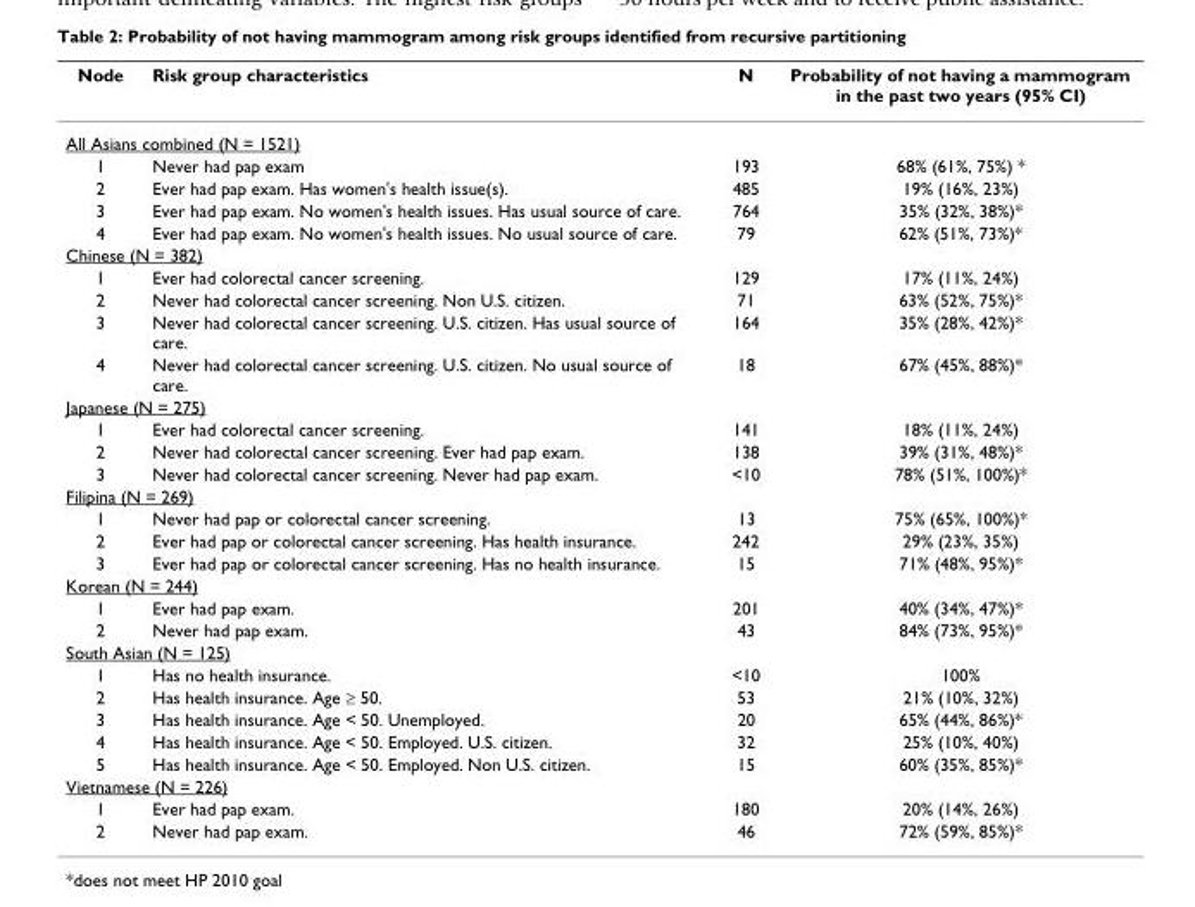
<table><thead><tr><td>Node</td><td>Risk group characteristics</td><td>N</td><td>Probability of not having a mammogram in the past two years (95% CI)</td></tr></thead><tbody><tr><td colspan="4">All Asians combined (N = 1521)</td></tr><tr><td>1</td><td>Never had pap exam</td><td>193</td><td>68% (61%, 75%) *</td></tr><tr><td>2</td><td>Ever had pap exam. Has women&#x27;s health issue(s).</td><td>485</td><td>19% (16%, 23%)</td></tr><tr><td>3</td><td>Ever had pap exam. No women&#x27;s health issues. Has usual source of care.</td><td>764</td><td>35% (32%, 38%)*</td></tr><tr><td>4</td><td>Ever had pap exam. No women&#x27;s health issues. No usual source of care.</td><td>79</td><td>62% (51%, 73%)*</td></tr><tr><td colspan="4">Chinese (N = 382)</td></tr><tr><td>1</td><td>Ever had colorectal cancer screening.</td><td>129</td><td>17% (11%, 24%)</td></tr><tr><td>2</td><td>Never had colorectal cancer screening. Non U.S. citizen.</td><td>71</td><td>63% (52%, 75%)*</td></tr><tr><td>3</td><td>Never had colorectal cancer screening. U.S. citizen. Has usual source of care.</td><td>164</td><td>35% (28%, 42%)*</td></tr><tr><td>4</td><td>Never had colorectal cancer screening. U.S. citizen. No usual source of care.</td><td>18</td><td>67% (45%, 88%)*</td></tr><tr><td colspan="4">Japanese (N = 275)</td></tr><tr><td>1</td><td>Ever had colorectal cancer screening.</td><td>141</td><td>18% (11%, 24%)</td></tr><tr><td>2</td><td>Never had colorectal cancer screening. Ever had pap exam.</td><td>138</td><td>39% (31%, 48%)*</td></tr><tr><td>3</td><td>Never had colorectal cancer screening. Never had pap exam.</td><td>&lt;10</td><td>78% (51%, 100%)*</td></tr><tr><td colspan="4">Filipina (N = 269)</td></tr><tr><td>1</td><td>Never had pap or colorectal cancer screening.</td><td>13</td><td>75% (65%, 100%)*</td></tr><tr><td>2</td><td>Ever had pap or colorectal cancer screening. Has health insurance.</td><td>242</td><td>29% (23%, 35%)</td></tr><tr><td>3</td><td>Ever had pap or colorectal cancer screening. Has no health insurance.</td><td>15</td><td>71% (48%, 95%)*</td></tr><tr><td colspan="4">Korean (N = 244)</td></tr><tr><td>1</td><td>Ever had pap exam.</td><td>201</td><td>40% (34%, 47%)*</td></tr><tr><td>2</td><td>Never had pap exam.</td><td>43</td><td>84% (73%, 95%)*</td></tr><tr><td colspan="4">South Asian (N = 125)</td></tr><tr><td>1</td><td>Has no health insurance.</td><td>&lt;10</td><td>100%</td></tr><tr><td>2</td><td>Has health insurance. Age ≥ 50.</td><td>53</td><td>21% (10%, 32%)</td></tr><tr><td>3</td><td>Has health insurance. Age &lt; 50. Unemployed.</td><td>20</td><td>65% (44%, 86%)*</td></tr><tr><td>4</td><td>Has health insurance. Age &lt; 50. Employed. U.S. citizen.</td><td>32</td><td>25% (10%, 40%)</td></tr><tr><td>5</td><td>Has health insurance. Age &lt; 50. Employed. Non U.S. citizen.</td><td>15</td><td>60% (35%, 85%)*</td></tr><tr><td colspan="4">Vietnamese (N = 226)</td></tr><tr><td>1</td><td>Ever had pap exam.</td><td>180</td><td>20% (14%, 26%)</td></tr><tr><td>2</td><td>Never had pap exam.</td><td>46</td><td>72% (59%, 85%)*</td></tr></tbody></table>